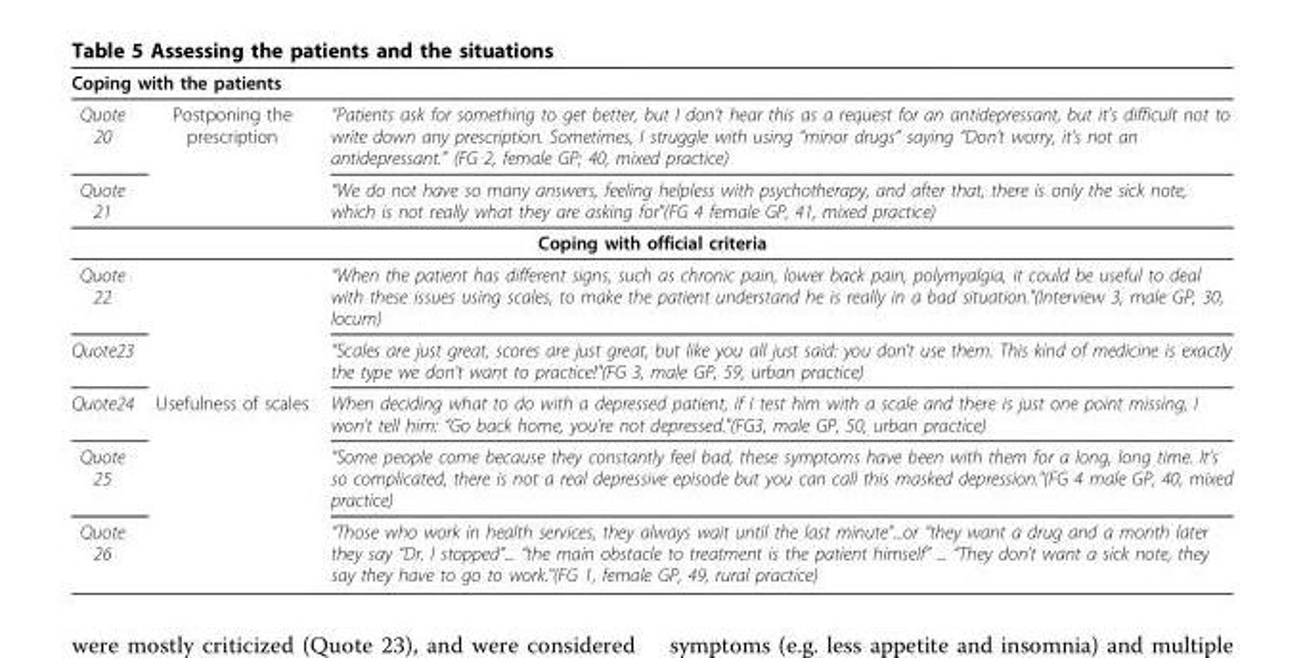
<table><thead><tr><td colspan="3">Coping with the patients</td></tr><tr><td>Quote 20</td><td>Postponing the prescription</td><td>“Patients ask for something to get better, but I don’t hear this as a request for an antidepressant, but it’s difficult not to write down any prescription. Sometimes, I struggle with using “minor drugs” saying “Don’t worry, it’s not an antidepressant.” (FG 2, female GP; 40, mixed practice)</td></tr></thead><tbody><tr><td>Quote 21</td><td></td><td>“We do not have so many answers, feeling helpless with psychotherapy, and after that, there is only the sick note, which is not really what they are asking for&quot;(FG 4 female GP, 41, mixed practice)</td></tr><tr><td colspan="3">Coping with official criteria</td></tr><tr><td>Quote 22</td><td></td><td>“When the patient has different signs, such as chronic pain, lower back pain, polymyalgia, it could be useful to deal with these issues using scales, to make the patient understand he is really in a bad situation.&quot;(Interview 3, male GP, 30, locum)</td></tr><tr><td>Quote23</td><td></td><td>“Scales are just great, scores are just great, but like you all just said: you don’t use them. This kind of medicine is exactly the type we don’t want to practice!&quot;(FG 3, male GP, 59, urban practice)</td></tr><tr><td>Quote24</td><td>Usefulness of scales</td><td>When deciding what to do with a depressed patient, if I test him with a scale and there is just one point missing, I won’t tell him: “Go back home, you’re not depressed.&quot;(FG3, male GP, 50, urban practice)</td></tr><tr><td>Quote 25</td><td></td><td>“Some people come because they constantly feel bad, these symptoms have been with them for a long, long time. It’s so complicated, there is not a real depressive episode but you can call this masked depression.&quot;(FG 4 male GP, 40, mixed practice)</td></tr><tr><td>Quote 26</td><td></td><td>“Those who work in health services, they always wait until the last minute”...or “they want a drug and a month later they say “Dr. I stopped”... “the main obstacle to treatment is the patient himself” ... “They don’t want a sick note, they say they have to go to work.&quot;(FG 1, female GP, 49, rural practice)</td></tr></tbody></table>